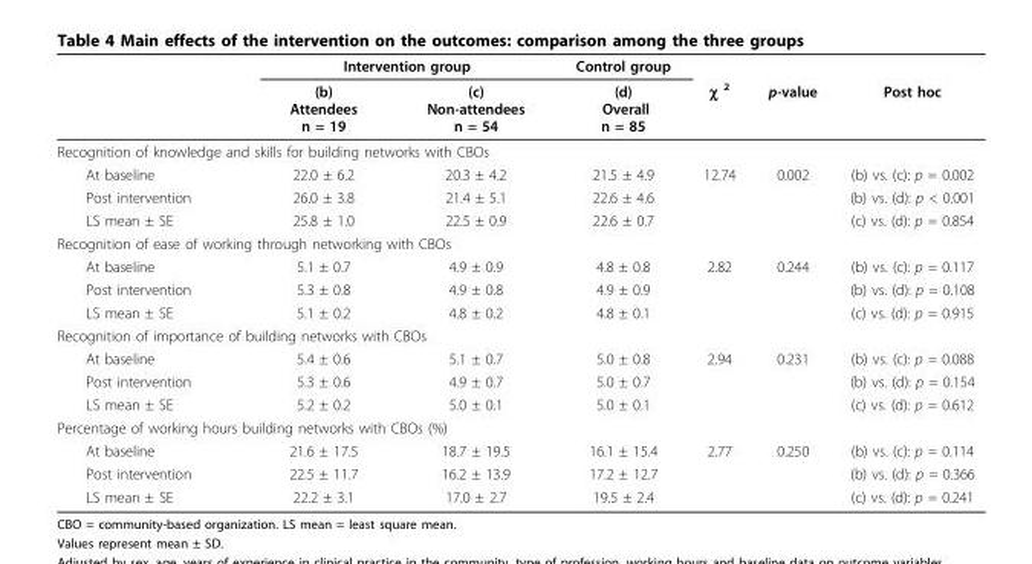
<table><thead><tr><td rowspan="2"></td><td colspan="2">Intervention group</td><td rowspan="2">Control group (d) Overall n = 85</td><td rowspan="2">χ <sup>2</sup></td><td rowspan="2">p-value</td><td rowspan="2">Post hoc</td></tr><tr><td>(b) Attendees n = 19</td><td>(c) Non-attendees n = 54</td></tr></thead><tbody><tr><td colspan="7">Recognition of knowledge and skills for building networks with CBOs</td></tr><tr><td>At baseline</td><td>22.0 ± 6.2</td><td>20.3 ± 4.2</td><td>21.5 ± 4.9</td><td>12.74</td><td>0.002</td><td>(b) vs. (c): p = 0.002</td></tr><tr><td>Post intervention</td><td>26.0 ± 3.8</td><td>21.4 ± 5.1</td><td>22.6 ± 4.6</td><td></td><td></td><td>(b) vs. (d): p &lt; 0.001</td></tr><tr><td>LS mean ± SE</td><td>25.8 ± 1.0</td><td>22.5 ± 0.9</td><td>22.6 ± 0.7</td><td></td><td></td><td>(c) vs. (d): p = 0.854</td></tr><tr><td colspan="7">Recognition of ease of working through networking with CBOs</td></tr><tr><td>At baseline</td><td>5.1 ± 0.7</td><td>4.9 ± 0.9</td><td>4.8 ± 0.8</td><td>2.82</td><td>0.244</td><td>(b) vs. (c): p = 0.117</td></tr><tr><td>Post intervention</td><td>5.3 ± 0.8</td><td>4.9 ± 0.8</td><td>4.9 ± 0.9</td><td></td><td></td><td>(b) vs. (d): p = 0.108</td></tr><tr><td>LS mean ± SE</td><td>5.1 ± 0.2</td><td>4.8 ± 0.2</td><td>4.8 ± 0.1</td><td></td><td></td><td>(c) vs. (d): p = 0.915</td></tr><tr><td colspan="7">Recognition of importance of building networks with CBOs</td></tr><tr><td>At baseline</td><td>5.4 ± 0.6</td><td>5.1 ± 0.7</td><td>5.0 ± 0.8</td><td>2.94</td><td>0.231</td><td>(b) vs. (c): p = 0.088</td></tr><tr><td>Post intervention</td><td>5.3 ± 0.6</td><td>4.9 ± 0.7</td><td>5.0 ± 0.7</td><td></td><td></td><td>(b) vs. (d): p = 0.154</td></tr><tr><td>LS mean ± SE</td><td>5.2 ± 0.2</td><td>5.0 ± 0.1</td><td>5.0 ± 0.1</td><td></td><td></td><td>(c) vs. (d): p = 0.612</td></tr><tr><td colspan="7">Percentage of working hours building networks with CBOs (%)</td></tr><tr><td>At baseline</td><td>21.6 ± 17.5</td><td>18.7 ± 19.5</td><td>16.1 ± 15.4</td><td>2.77</td><td>0.250</td><td>(b) vs. (c): p = 0.114</td></tr><tr><td>Post intervention</td><td>22.5 ± 11.7</td><td>16.2 ± 13.9</td><td>17.2 ± 12.7</td><td></td><td></td><td>(b) vs. (d): p = 0.366</td></tr><tr><td>LS mean ± SE</td><td>22.2 ± 3.1</td><td>17.0 ± 2.7</td><td>19.5 ± 2.4</td><td></td><td></td><td>(c) vs. (d): p = 0.241</td></tr></tbody></table>